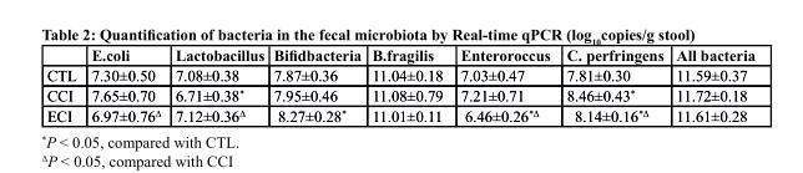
<table><thead><tr><td></td><td>E.coli</td><td>Lactobacillus</td><td>Bifidbacteria</td><td>B.fragilis</td><td>enteroroccus</td><td>c. perfringens</td><td>All bacteria</td></tr></thead><tbody><tr><td>CTL</td><td>7.30±0.50</td><td>7.08±0.38</td><td>7.87±0.36</td><td>11.04±0.18</td><td>7.03±0.47</td><td>7.81±0.30</td><td>11.59±0.37</td></tr><tr><td>CCI</td><td>7.65±0.70</td><td>6.71±0.38*</td><td>7.95±0.46</td><td>11.08±0.79</td><td>7.21±0.71</td><td>8.46±0.43*</td><td>11.72±0.18</td></tr><tr><td>ECI</td><td>6.97±0.76<sup>Δ</sup></td><td>7.12±0.36<sup>Δ</sup></td><td>8.27±0.28*</td><td>11.01±0.11</td><td>6.46±0.26*Δ</td><td>8.14±0.16*Δ</td><td>11.61±0.28</td></tr></tbody></table>